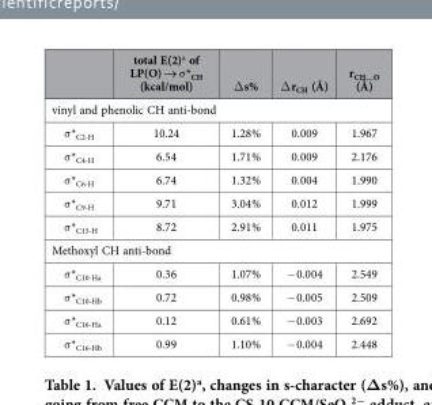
<table><thead><tr><td></td><td>total E(2)<sup>a</sup> of LP(O) → σ *<sub>CH</sub> (kcal/mol)</td><td>Δ s%</td><td>Δ r<sub>CH</sub> (Å)</td><td>r<sub>CH…O</sub> (Å)</td></tr></thead><tbody><tr><td colspan="5">vinyl and phenolic CH anti-bond</td></tr><tr><td>σ *<sub>C2-H</sub></td><td>10.24</td><td>1.28%</td><td>0.009</td><td>1.967</td></tr><tr><td>σ *<sub>C4-H</sub></td><td>6.54</td><td>1.71%</td><td>0.009</td><td>2.176</td></tr><tr><td>σ *<sub>C6-H</sub></td><td>6.74</td><td>1.32%</td><td>0.004</td><td>1.990</td></tr><tr><td>σ *<sub>C9-H</sub></td><td>9.71</td><td>3.04%</td><td>0.012</td><td>1.999</td></tr><tr><td>σ *<sub>C15-H</sub></td><td>8.72</td><td>2.91%</td><td>0.011</td><td>1.975</td></tr><tr><td colspan="5">Methoxyl CH anti-bond</td></tr><tr><td>σ *<sub>C10-Ha</sub></td><td>0.36</td><td>1.07%</td><td>− 0.004</td><td>2.549</td></tr><tr><td>σ *<sub>C10-Hb</sub></td><td>0.72</td><td>0.98%</td><td>− 0.005</td><td>2.509</td></tr><tr><td>σ *<sub>C16-Ha</sub></td><td>0.12</td><td>0.61%</td><td>− 0.003</td><td>2.692</td></tr><tr><td>σ *<sub>C16-Hb</sub></td><td>0.99</td><td>1.10%</td><td>− 0.004</td><td>2.448</td></tr></tbody></table>